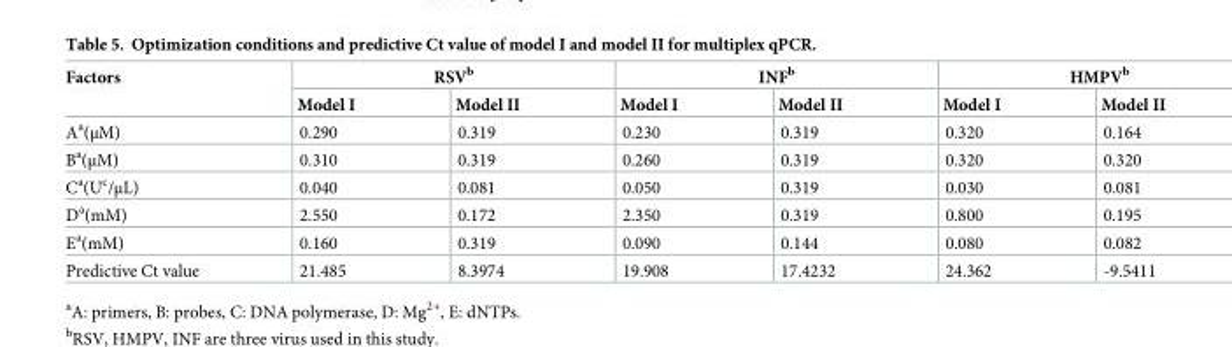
<table><thead><tr><td rowspan="2">Factors</td><td colspan="2">RSV<sup>b</sup></td><td colspan="2">INF<sup>b</sup></td><td colspan="2">HMPV<sup>b</sup></td></tr><tr><td>Model I</td><td>Model II</td><td>Model I</td><td>Model II</td><td>Model I</td><td>Model II</td></tr></thead><tbody><tr><td>A<sup>a</sup>(μM)</td><td>0.290</td><td>0.319</td><td>0.230</td><td>0.319</td><td>0.320</td><td>0.164</td></tr><tr><td>B<sup>a</sup>(μM)</td><td>0.310</td><td>0.319</td><td>0.260</td><td>0.319</td><td>0.320</td><td>0.320</td></tr><tr><td>C<sup>a</sup>(U<sup>c</sup>/μL)</td><td>0.040</td><td>0.081</td><td>0.050</td><td>0.319</td><td>0.030</td><td>0.081</td></tr><tr><td>D<sup>a</sup>(mM)</td><td>2.550</td><td>0.172</td><td>2.350</td><td>0.319</td><td>0.800</td><td>0.195</td></tr><tr><td>E<sup>a</sup>(mM)</td><td>0.160</td><td>0.319</td><td>0.090</td><td>0.144</td><td>0.080</td><td>0.082</td></tr><tr><td>Predictive Ct value</td><td>21.485</td><td>8.3974</td><td>19.908</td><td>17.4232</td><td>24.362</td><td>-9.5411</td></tr></tbody></table>